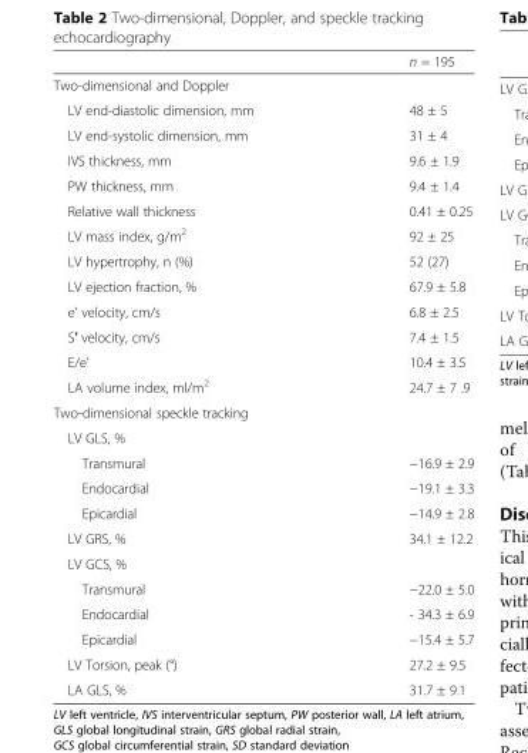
<table><thead><tr><td></td><td>n = 195</td></tr></thead><tbody><tr><td colspan="2">Two-dimensional and Doppler</td></tr><tr><td>LV end-diastolic dimension, mm</td><td>48 ± 5</td></tr><tr><td>LV end-systolic dimension, mm</td><td>31 ± 4</td></tr><tr><td>IVS thickness, mm</td><td>9.6 ± 1.9</td></tr><tr><td>PW thickness, mm</td><td>9.4 ± 1.4</td></tr><tr><td>Relative wall thickness</td><td>0.41 ± 0.25</td></tr><tr><td>LV mass index, g/m<sup>2</sup></td><td>92 ± 25</td></tr><tr><td>LV hypertrophy, n (%)</td><td>52 (27)</td></tr><tr><td>LV ejection fraction, %</td><td>67.9 ± 5.8</td></tr><tr><td>e’ velocity, cm/s</td><td>6.8 ± 2.5</td></tr><tr><td>S′ velocity, cm/s</td><td>7.4 ± 1.5</td></tr><tr><td>E/e’</td><td>10.4 ± 3.5</td></tr><tr><td>LA volume index, ml/m<sup>2</sup></td><td>24.7 ± 7 .9</td></tr><tr><td colspan="2">Two-dimensional speckle tracking</td></tr><tr><td colspan="2">LV GLS, %</td></tr><tr><td>Transmural</td><td>−16.9 ± 2.9</td></tr><tr><td>Endocardial</td><td>−19.1 ± 3.3</td></tr><tr><td>Epicardial</td><td>−14.9 ± 2.8</td></tr><tr><td>LV GRS, %</td><td>34.1 ± 12.2</td></tr><tr><td colspan="2">LV GCS, %</td></tr><tr><td>Transmural</td><td>−22.0 ± 5.0</td></tr><tr><td>Endocardial</td><td>- 34.3 ± 6.9</td></tr><tr><td>Epicardial</td><td>−15.4 ± 5.7</td></tr><tr><td>LV Torsion, peak (°)</td><td>27.2 ± 9.5</td></tr><tr><td>LA GLS, %</td><td>31.7 ± 9.1</td></tr></tbody></table>